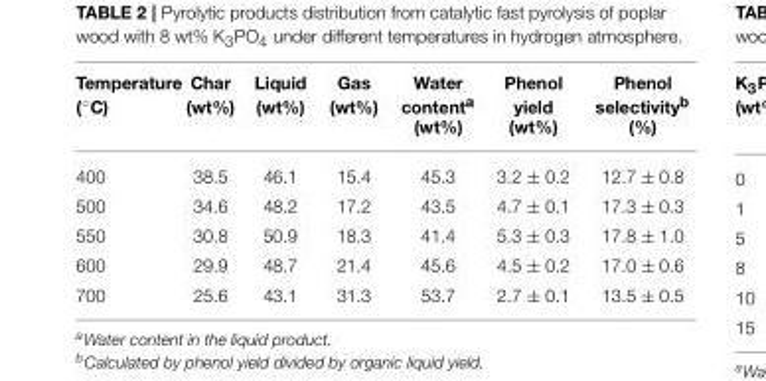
<table><thead><tr><td>Temperature (◦C)</td><td>Char (wt%)</td><td>Liquid (wt%)</td><td>Gas (wt%)</td><td>Water content<sup>a</sup> (wt%)</td><td>Phenol yield (wt%)</td><td>Phenol selectivity<sup>b</sup> (%)</td></tr></thead><tbody><tr><td>400</td><td>38.5</td><td>46.1</td><td>15.4</td><td>45.3</td><td>3.2 ± 0.2</td><td>12.7 ± 0.8</td></tr><tr><td>500</td><td>34.6</td><td>48.2</td><td>17.2</td><td>43.5</td><td>4.7 ± 0.1</td><td>17.3 ± 0.3</td></tr><tr><td>550</td><td>30.8</td><td>50.9</td><td>18.3</td><td>41.4</td><td>5.3 ± 0.3</td><td>17.8 ± 1.0</td></tr><tr><td>600</td><td>29.9</td><td>48.7</td><td>21.4</td><td>45.6</td><td>4.5 ± 0.2</td><td>17.0 ± 0.6</td></tr><tr><td>700</td><td>25.6</td><td>43.1</td><td>31.3</td><td>53.7</td><td>2.7 ± 0.1</td><td>13.5 ± 0.5</td></tr></tbody></table>